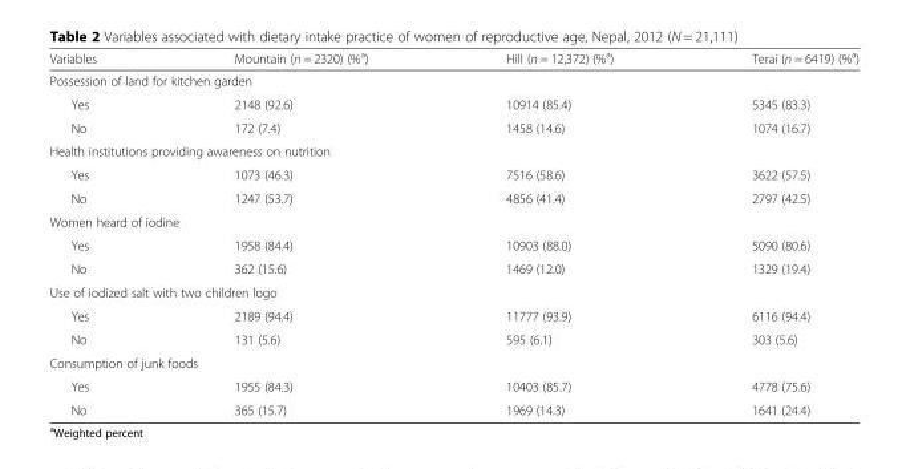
<table><thead><tr><td>Variables</td><td>Mountain (n = 2320) (%<sup>a</sup>)</td><td>Hill (n = 12,372) (%<sup>a</sup>)</td><td>Terai (n = 6419) (%<sup>a</sup>)</td></tr></thead><tbody><tr><td colspan="4">Possession of land for kitchen garden</td></tr><tr><td>Yes</td><td>2148 (92.6)</td><td>10914 (85.4)</td><td>5345 (83.3)</td></tr><tr><td>No</td><td>172 (7.4)</td><td>1458 (14.6)</td><td>1074 (16.7)</td></tr><tr><td colspan="4">Health institutions providing awareness on nutrition</td></tr><tr><td>Yes</td><td>1073 (46.3)</td><td>7516 (58.6)</td><td>3622 (57.5)</td></tr><tr><td>No</td><td>1247 (53.7)</td><td>4856 (41.4)</td><td>2797 (42.5)</td></tr><tr><td colspan="4">Women heard of iodine</td></tr><tr><td>Yes</td><td>1958 (84.4)</td><td>10903 (88.0)</td><td>5090 (80.6)</td></tr><tr><td>No</td><td>362 (15.6)</td><td>1469 (12.0)</td><td>1329 (19.4)</td></tr><tr><td colspan="4">Use of iodized salt with two children logo</td></tr><tr><td>Yes</td><td>2189 (94.4)</td><td>11777 (93.9)</td><td>6116 (94.4)</td></tr><tr><td>No</td><td>131 (5.6)</td><td>595 (6.1)</td><td>303 (5.6)</td></tr><tr><td colspan="4">Consumption of junk foods</td></tr><tr><td>Yes</td><td>1955 (84.3)</td><td>10403 (85.7)</td><td>4778 (75.6)</td></tr><tr><td>No</td><td>365 (15.7)</td><td>1969 (14.3)</td><td>1641 (24.4)</td></tr></tbody></table>